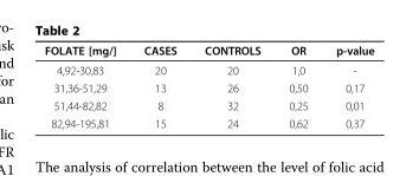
<table><thead><tr><td>FOLATE [mg/]</td><td>CASES</td><td>CONTROLS</td><td>OR</td><td>p-value</td></tr></thead><tbody><tr><td>4,92-30,83</td><td>20</td><td>20</td><td>1,0</td><td>-</td></tr><tr><td>31,36-51,29</td><td>13</td><td>26</td><td>0,50</td><td>0,17</td></tr><tr><td>51,44-82,82</td><td>8</td><td>32</td><td>0,25</td><td>0,01</td></tr><tr><td>82,94-195,81</td><td>15</td><td>24</td><td>0,62</td><td>0,37</td></tr></tbody></table>